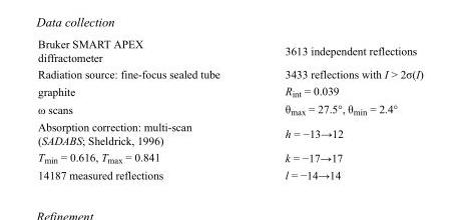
<table><tbody><tr><td>Bruker SMART APEX diffractometer</td><td>3613 independent reflections</td></tr><tr><td>Radiation source: fine-focus sealed tube</td><td>3433 reflections with I &gt; 2σ(I)</td></tr><tr><td>graphite</td><td>R<sub>int</sub> = 0.039</td></tr><tr><td>ω scans</td><td>θ<sub>max</sub> = 27.5°, θ<sub>min</sub> = 2.4°</td></tr><tr><td>Absorption correction: multi-scan (SADABS; Sheldrick, 1996)</td><td>h = −13→12</td></tr><tr><td>T<sub>min</sub> = 0.616, T<sub>max</sub> = 0.841</td><td>k = −17→17</td></tr><tr><td>14187 measured reflections</td><td>l = −14→14</td></tr></tbody></table>